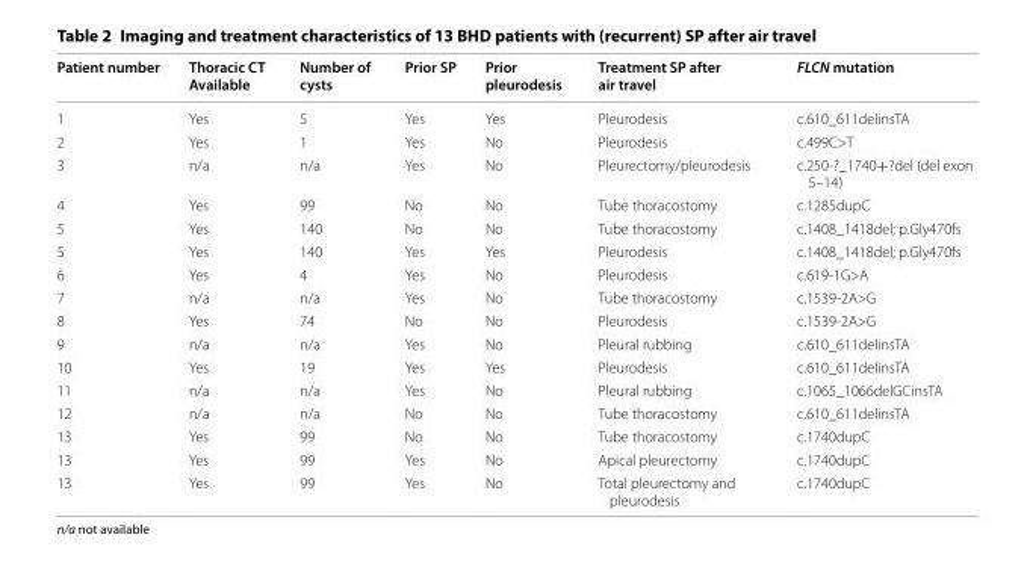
<table><thead><tr><td>Patient number</td><td>Thoracic CT Available</td><td>Number of cysts</td><td>Prior SP</td><td>Prior pleurodesis</td><td>Treatment SP after air travel</td><td>FLCN mutation</td></tr></thead><tbody><tr><td>1</td><td>Yes</td><td>5</td><td>Yes</td><td>Yes</td><td>Pleurodesis</td><td>c.610_611delinsTA</td></tr><tr><td>2</td><td>Yes</td><td>1</td><td>Yes</td><td>No</td><td>Pleurodesis</td><td>c.499C&gt;T</td></tr><tr><td>3</td><td>n/a</td><td>n/a</td><td>Yes</td><td>No</td><td>Pleurectomy/pleurodesis</td><td>c.250-?_1740+?del (del exon 5–14)</td></tr><tr><td>4</td><td>Yes</td><td>99</td><td>No</td><td>No</td><td>Tube thoracostomy</td><td>c.1285dupC</td></tr><tr><td>5</td><td>Yes</td><td>140</td><td>No</td><td>No</td><td>Tube thoracostomy</td><td>c.1408_1418del; p.Gly470fs</td></tr><tr><td>5</td><td>Yes</td><td>140</td><td>Yes</td><td>Yes</td><td>Pleurodesis</td><td>c.1408_1418del; p.Gly470fs</td></tr><tr><td>6</td><td>Yes</td><td>4</td><td>Yes</td><td>No</td><td>Pleurodesis</td><td>c.619-1G&gt;A</td></tr><tr><td>7</td><td>n/a</td><td>n/a</td><td>Yes</td><td>No</td><td>Tube thoracostomy</td><td>c.1539-2A&gt;G</td></tr><tr><td>8</td><td>Yes</td><td>74</td><td>No</td><td>No</td><td>Pleurodesis</td><td>c.1539-2A&gt;G</td></tr><tr><td>9</td><td>n/a</td><td>n/a</td><td>Yes</td><td>No</td><td>Pleural rubbing</td><td>c.610_611delinsTA</td></tr><tr><td>10</td><td>Yes</td><td>19</td><td>Yes</td><td>Yes</td><td>Pleurodesis</td><td>c.610_611delinsTA</td></tr><tr><td>11</td><td>n/a</td><td>n/a</td><td>Yes</td><td>No</td><td>Pleural rubbing</td><td>c.1065_1066delGCinsTA</td></tr><tr><td>12</td><td>n/a</td><td>n/a</td><td>No</td><td>No</td><td>Tube thoracostomy</td><td>c.610_611delinsTA</td></tr><tr><td>13</td><td>Yes</td><td>99</td><td>No</td><td>No</td><td>Tube thoracostomy</td><td>c.1740dupC</td></tr><tr><td>13</td><td>Yes</td><td>99</td><td>Yes</td><td>No</td><td>Apical pleurectomy</td><td>c.1740dupC</td></tr><tr><td>13</td><td>Yes</td><td>99</td><td>Yes</td><td>No</td><td>Total pleurectomy and pleurodesis</td><td>c.1740dupC</td></tr></tbody></table>